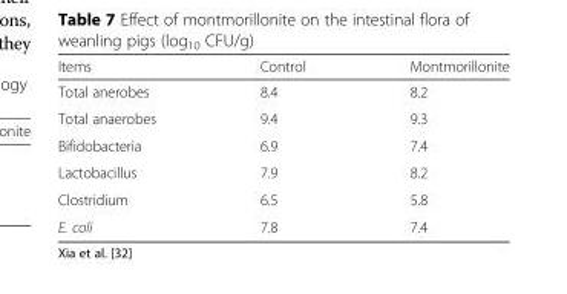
<table><thead><tr><td>Items</td><td>Control</td><td>Montmorillonite</td></tr></thead><tbody><tr><td>Total anerobes</td><td>8.4</td><td>8.2</td></tr><tr><td>Total anaerobes</td><td>9.4</td><td>9.3</td></tr><tr><td>Bifidobacteria</td><td>6.9</td><td>7.4</td></tr><tr><td>Lactobacillus</td><td>7.9</td><td>8.2</td></tr><tr><td>Clostridium</td><td>6.5</td><td>5.8</td></tr><tr><td>E. coli</td><td>7.8</td><td>7.4</td></tr></tbody></table>